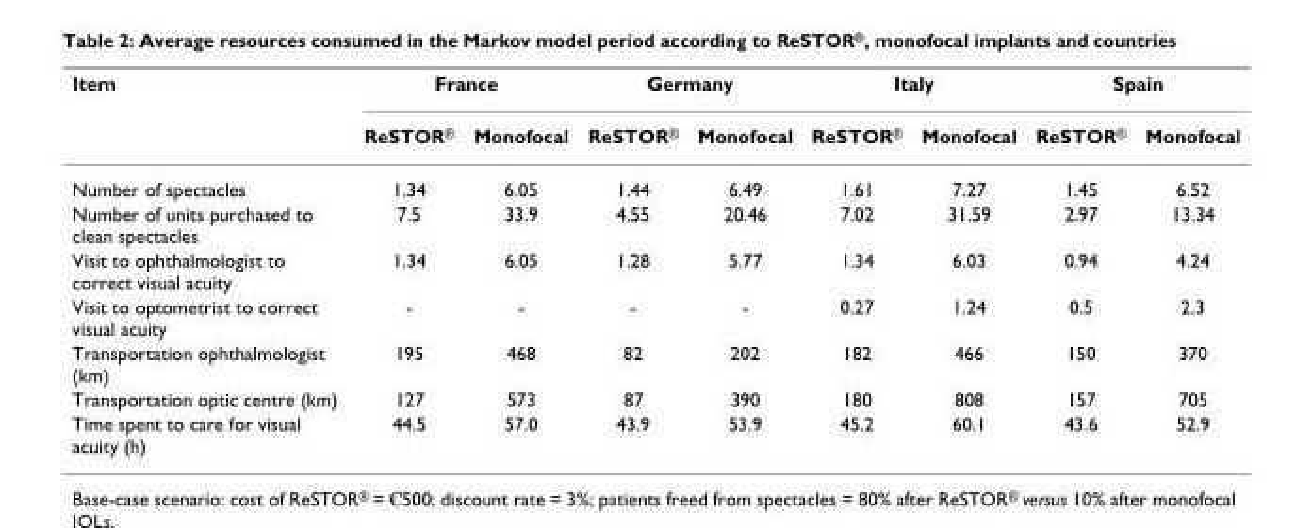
<table><thead><tr><td rowspan="2">Item</td><td colspan="2">France</td><td colspan="2">Germany</td><td colspan="2">Italy</td><td colspan="2">Spain</td></tr><tr><td>ReSTOR<sup>®</sup></td><td>Monofocal</td><td>ReSTOR<sup>®</sup></td><td>Monofocal</td><td>ReSTOR<sup>®</sup></td><td>Monofocal</td><td>ReSTOR<sup>®</sup></td><td>Monofocal</td></tr></thead><tbody><tr><td>Number of spectacles</td><td>1.34</td><td>6.05</td><td>1.44</td><td>6.49</td><td>1.61</td><td>7.27</td><td>1.45</td><td>6.52</td></tr><tr><td>Number of units purchased to clean spectacles</td><td>7.5</td><td>33.9</td><td>4.55</td><td>20.46</td><td>7.02</td><td>31.59</td><td>2.97</td><td>13.34</td></tr><tr><td>Visit to ophthalmologist to correct visual acuity</td><td>1.34</td><td>6.05</td><td>1.28</td><td>5.77</td><td>1.34</td><td>6.03</td><td>0.94</td><td>4.24</td></tr><tr><td>Visit to optometrist to correct visual acuity</td><td>-</td><td>-</td><td>-</td><td>-</td><td>0.27</td><td>1.24</td><td>0.5</td><td>2.3</td></tr><tr><td>Transportation ophthalmologist (km)</td><td>195</td><td>468</td><td>82</td><td>202</td><td>182</td><td>466</td><td>150</td><td>370</td></tr><tr><td>Transportation optic centre (km)</td><td>127</td><td>573</td><td>87</td><td>390</td><td>180</td><td>808</td><td>157</td><td>705</td></tr><tr><td>Time spent to care for visual acuity (h)</td><td>44.5</td><td>57.0</td><td>43.9</td><td>53.9</td><td>45.2</td><td>60.1</td><td>43.6</td><td>52.9</td></tr></tbody></table>